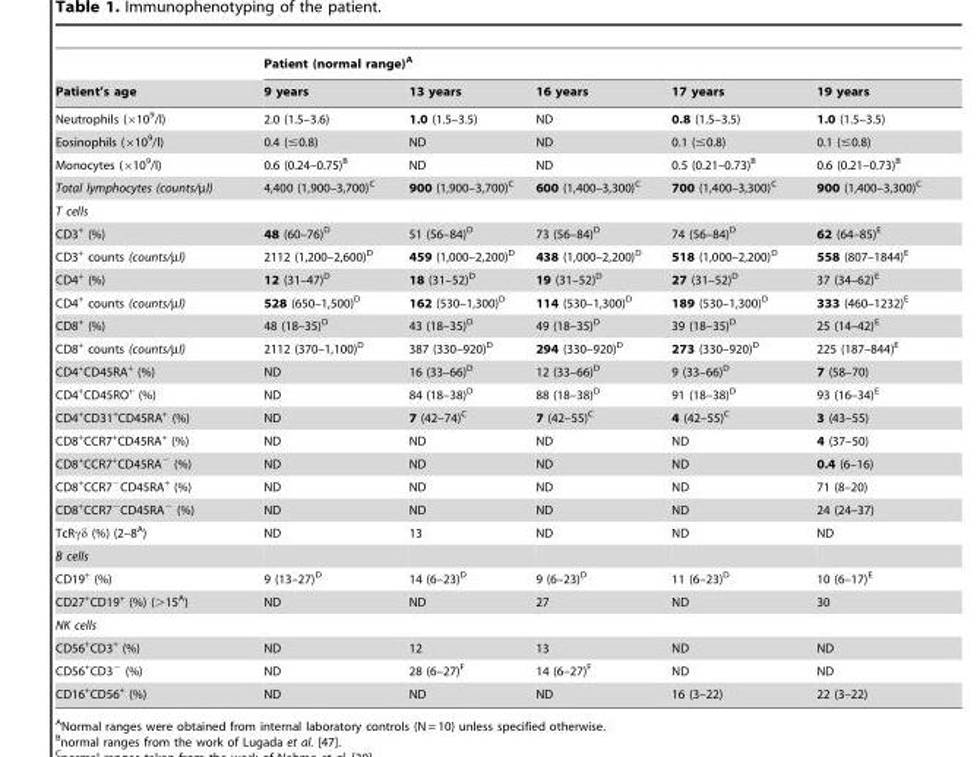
<table><thead><tr><td rowspan="2">Patient’s age</td><td colspan="5">Patient (normal range)<sup>A</sup></td></tr><tr><td>9 years</td><td>13 years</td><td>16 years</td><td>17 years</td><td>19 years</td></tr></thead><tbody><tr><td>Neutrophils (×10<sup>9</sup>/l)</td><td>2.0 (1.5–3.6)</td><td>1.0 (1.5–3.5)</td><td>ND</td><td>0.8 (1.5–3.5)</td><td>1.0 (1.5–3.5)</td></tr><tr><td>Eosinophils (×10<sup>9</sup>/l)</td><td>0.4 (≤0.8)</td><td>ND</td><td>ND</td><td>0.1 (≤0.8)</td><td>0.1 (≤0.8)</td></tr><tr><td>Monocytes (×10<sup>9</sup>/l)</td><td>0.6 (0.24–0.75)<sup>B</sup></td><td>ND</td><td>ND</td><td>0.5 (0.21–0.73)<sup>B</sup></td><td>0.6 (0.21–0.73)<sup>B</sup></td></tr><tr><td>Total lymphocytes (counts/µl)</td><td>4,400 (1,900–3,700)<sup>C</sup></td><td>900 (1,900–3,700)<sup>C</sup></td><td>600 (1,400–3,300)<sup>C</sup></td><td>700 (1,400–3,300)<sup>C</sup></td><td>900 (1,400–3,300)<sup>C</sup></td></tr><tr><td colspan="6">T cells</td></tr><tr><td>CD3<sup>+</sup> (%)</td><td>48 (60–76)<sup>D</sup></td><td>51 (56–84)<sup>D</sup></td><td>73 (56–84)<sup>D</sup></td><td>74 (56–84)<sup>D</sup></td><td>62 (64–85)<sup>E</sup></td></tr><tr><td>CD3<sup>+</sup> counts (counts/µl)</td><td>2112 (1,200–2,600)<sup>D</sup></td><td>459 (1,000–2,200)<sup>D</sup></td><td>438 (1,000–2,200)<sup>D</sup></td><td>518 (1,000–2,200)<sup>D</sup></td><td>558 (807–1844)<sup>E</sup></td></tr><tr><td>CD4<sup>+</sup> (%)</td><td>12 (31–47)<sup>D</sup></td><td>18 (31–52)<sup>D</sup></td><td>19 (31–52)<sup>D</sup></td><td>27 (31–52)<sup>D</sup></td><td>37 (34–62)<sup>E</sup></td></tr><tr><td>CD4<sup>+</sup> counts (counts/µl)</td><td>528 (650–1,500)<sup>D</sup></td><td>162 (530–1,300)<sup>D</sup></td><td>114 (530–1,300)<sup>D</sup></td><td>189 (530–1,300)<sup>D</sup></td><td>333 (460–1232)<sup>E</sup></td></tr><tr><td>CD8<sup>+</sup> (%)</td><td>48 (18–35)<sup>D</sup></td><td>43 (18–35)<sup>D</sup></td><td>49 (18–35)<sup>D</sup></td><td>39 (18–35)<sup>D</sup></td><td>25 (14–42)<sup>E</sup></td></tr><tr><td>CD8<sup>+</sup> counts (counts/µl)</td><td>2112 (370–1,100)<sup>D</sup></td><td>387 (330–920)<sup>D</sup></td><td>294 (330–920)<sup>D</sup></td><td>273 (330–920)<sup>D</sup></td><td>225 (187–844)<sup>E</sup></td></tr><tr><td>CD4<sup>+</sup>CD45RA<sup>+</sup> (%)</td><td>ND</td><td>16 (33–66)<sup>D</sup></td><td>12 (33–66)<sup>D</sup></td><td>9 (33–66)<sup>D</sup></td><td>7 (58–70)</td></tr><tr><td>CD4<sup>+</sup>CD45RO<sup>+</sup> (%)</td><td>ND</td><td>84 (18–38)<sup>D</sup></td><td>88 (18–38)<sup>D</sup></td><td>91 (18–38)<sup>D</sup></td><td>93 (16–34)<sup>E</sup></td></tr><tr><td>CD4<sup>+</sup>CD31<sup>+</sup>CD45RA<sup>+</sup> (%)</td><td>ND</td><td>7 (42–74)<sup>C</sup></td><td>7 (42–55)<sup>C</sup></td><td>4 (42–55)<sup>C</sup></td><td>3 (43–55)</td></tr><tr><td>CD8<sup>+</sup>CCR7<sup>+</sup>CD45RA<sup>+</sup> (%)</td><td>ND</td><td>ND</td><td>ND</td><td>ND</td><td>4 (37–50)</td></tr><tr><td>CD8<sup>+</sup>CCR7<sup>+</sup>CD45RA<sup>−</sup> (%)</td><td>ND</td><td>ND</td><td>ND</td><td>ND</td><td>0.4 (6–16)</td></tr><tr><td>CD8<sup>+</sup>CCR7<sup>−</sup>CD45RA<sup>+</sup> (%)</td><td>ND</td><td>ND</td><td>ND</td><td>ND</td><td>71 (8–20)</td></tr><tr><td>CD8<sup>+</sup>CCR7<sup>−</sup>CD45RA<sup>−</sup> (%)</td><td>ND</td><td>ND</td><td>ND</td><td>ND</td><td>24 (24–37)</td></tr><tr><td>TcRγδ (%) (2–8<sup>A</sup>)</td><td>ND</td><td>13</td><td>ND</td><td>ND</td><td>ND</td></tr><tr><td colspan="6">B cells</td></tr><tr><td>CD19<sup>+</sup> (%)</td><td>9 (13–27)<sup>D</sup></td><td>14 (6–23)<sup>D</sup></td><td>9 (6–23)<sup>D</sup></td><td>11 (6–23)<sup>D</sup></td><td>10 (6–17)<sup>E</sup></td></tr><tr><td>CD27<sup>+</sup>CD19<sup>+</sup> (%) (&gt;15<sup>A</sup>)</td><td>ND</td><td>ND</td><td>27</td><td>ND</td><td>30</td></tr><tr><td colspan="6">NK cells</td></tr><tr><td>CD56<sup>+</sup>CD3<sup>+</sup> (%)</td><td>ND</td><td>12</td><td>13</td><td>ND</td><td>ND</td></tr><tr><td>CD56<sup>+</sup>CD3<sup>−</sup> (%)</td><td>ND</td><td>28 (6–27)<sup>F</sup></td><td>14 (6–27)<sup>F</sup></td><td>ND</td><td>ND</td></tr><tr><td>CD16<sup>+</sup>CD56<sup>+</sup> (%)</td><td>ND</td><td>ND</td><td>ND</td><td>16 (3–22)</td><td>22 (3–22)</td></tr></tbody></table>